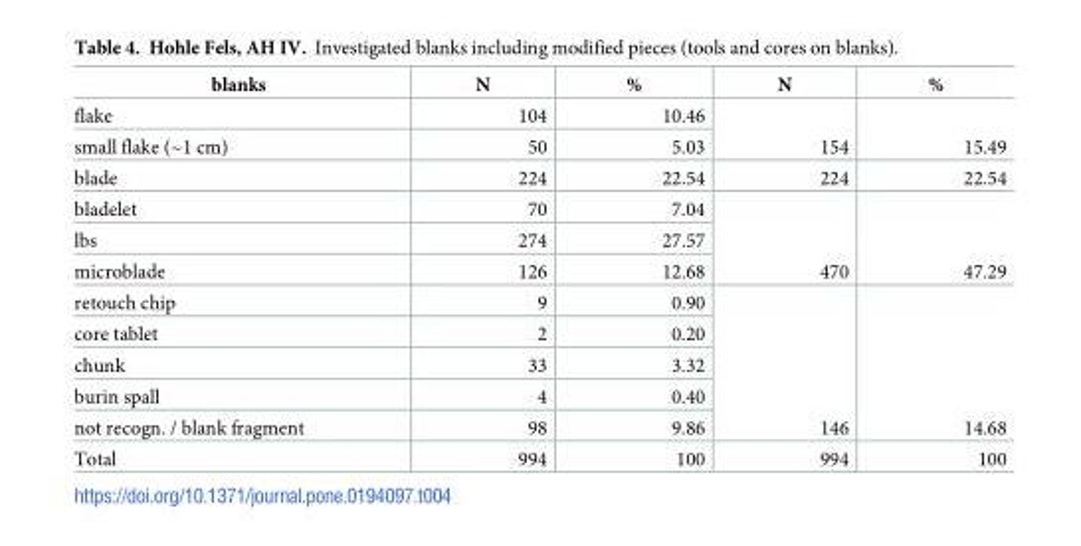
<table><thead><tr><td>blanks</td><td>N</td><td>%</td><td>N</td><td>%</td></tr></thead><tbody><tr><td>flake</td><td>104</td><td>10.46</td><td rowspan="2">154</td><td rowspan="2">15.49</td></tr><tr><td>small flake (~1 cm)</td><td>50</td><td>5.03</td></tr><tr><td>blade</td><td>224</td><td>22.54</td><td>224</td><td>22.54</td></tr><tr><td>bladelet</td><td>70</td><td>7.04</td><td rowspan="3">470</td><td rowspan="3">47.29</td></tr><tr><td>lbs</td><td>274</td><td>27.57</td></tr><tr><td>microblade</td><td>126</td><td>12.68</td></tr><tr><td>retouch chip</td><td>9</td><td>0.90</td><td rowspan="5">146</td><td rowspan="5">14.68</td></tr><tr><td>core tablet</td><td>2</td><td>0.20</td></tr><tr><td>chunk</td><td>33</td><td>3.32</td></tr><tr><td>burin spall</td><td>4</td><td>0.40</td></tr><tr><td>not recogn. / blank fragment</td><td>98</td><td>9.86</td></tr><tr><td>Total</td><td>994</td><td>100</td><td>994</td><td>100</td></tr></tbody></table>